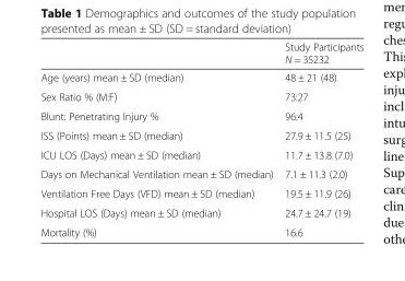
<table><thead><tr><td></td><td>Study Participants N = 35232</td></tr></thead><tbody><tr><td>Age (years) mean ± SD (median)</td><td>48 ± 21 (48)</td></tr><tr><td>Sex Ratio % (M:F)</td><td>73:27</td></tr><tr><td>Blunt: Penetrating Injury %</td><td>96:4</td></tr><tr><td>ISS (Points) mean ± SD (median)</td><td>27.9 ± 11.5 (25)</td></tr><tr><td>ICU LOS (Days) mean ± SD (median)</td><td>11.7 ± 13.8 (7.0)</td></tr><tr><td>Days on Mechanical Ventilation mean ± SD (median)</td><td>7.1 ± 11.3 (2.0)</td></tr><tr><td>Ventilation Free Days (VFD) mean ± SD (median)</td><td>19.5 ± 11.9 (26)</td></tr><tr><td>Hospital LOS (Days) mean ± SD (median)</td><td>24.7 ± 24.7 (19)</td></tr><tr><td>Mortality (%)</td><td>16.6</td></tr></tbody></table>